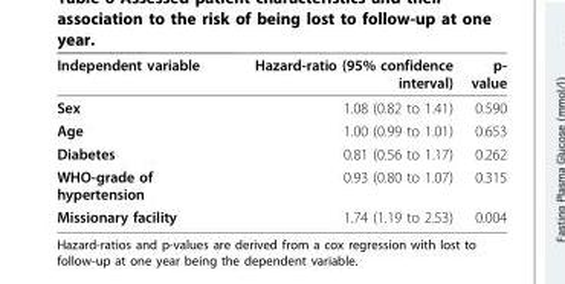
<table><thead><tr><td>Independent variable</td><td>Hazard-ratio (95% confidence interval)</td><td>p- value</td></tr></thead><tbody><tr><td>Sex</td><td>1.08 (0.82 to 1.41)</td><td>0.590</td></tr><tr><td>Age</td><td>1.00 (0.99 to 1.01)</td><td>0.653</td></tr><tr><td>Diabetes</td><td>0.81 (0.56 to 1.17)</td><td>0.262</td></tr><tr><td>WHO-grade of hypertension</td><td>0.93 (0.80 to 1.07)</td><td>0.315</td></tr><tr><td>Missionary facility</td><td>1.74 (1.19 to 2.53)</td><td>0.004</td></tr></tbody></table>